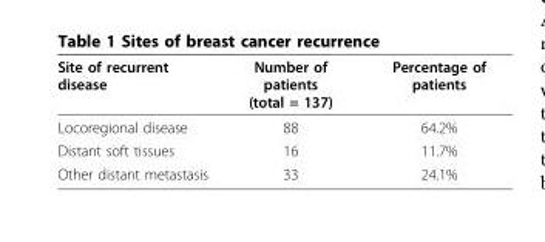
<table><thead><tr><td>Site of recurrent disease</td><td>Number of patients (total = 137)</td><td>Percentage of patients</td></tr></thead><tbody><tr><td>Locoregional disease</td><td>88</td><td>64.2%</td></tr><tr><td>Distant soft tissues</td><td>16</td><td>11.7%</td></tr><tr><td>Other distant metastasis</td><td>33</td><td>24.1%</td></tr></tbody></table>